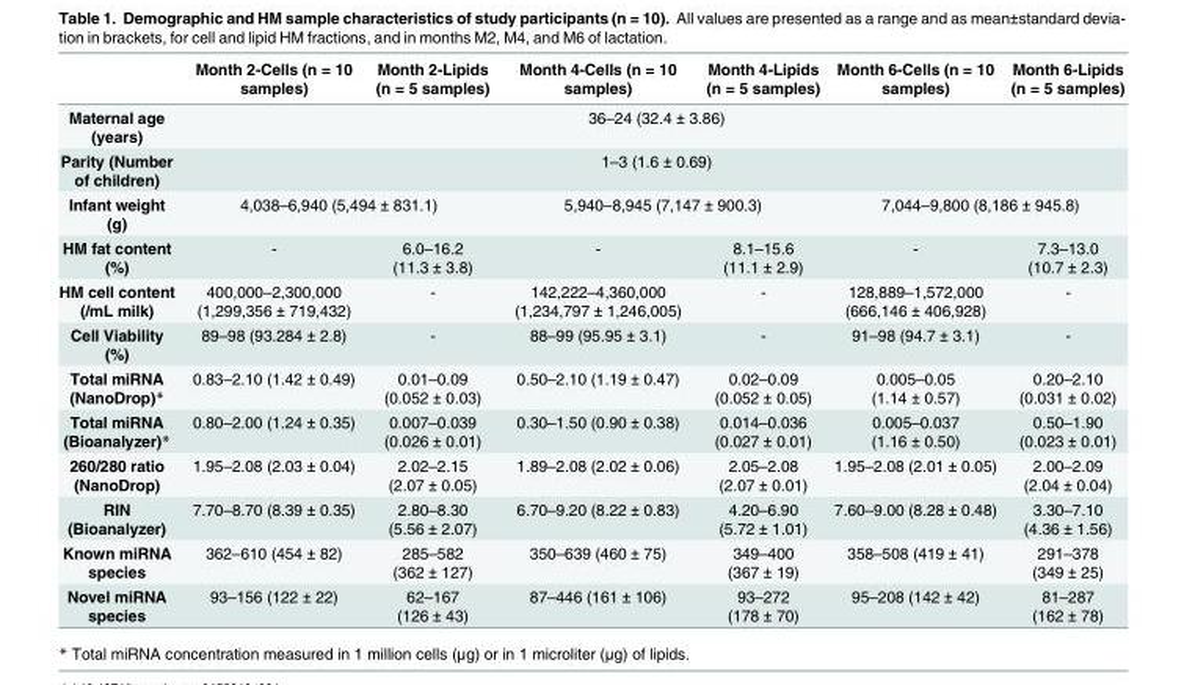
<table><thead><tr><td></td><td>Month 2-Cells (n = 10 samples)</td><td>Month 2-Lipids (n = 5 samples)</td><td>Month 4-Cells (n = 10 samples)</td><td>Month 4-Lipids (n = 5 samples)</td><td>Month 6-Cells (n = 10 samples)</td><td>Month 6-Lipids (n = 5 samples)</td></tr></thead><tbody><tr><td>Maternal age (years)</td><td colspan="6">36–24 (32.4 ± 3.86)</td></tr><tr><td>Parity (Number of children)</td><td colspan="6">1–3 (1.6 ± 0.69)</td></tr><tr><td>Infant weight (g)</td><td colspan="2">4,038–6,940 (5,494 ± 831.1)</td><td colspan="2">5,940–8,945 (7,147 ± 900.3)</td><td colspan="2">7,044–9,800 (8,186 ± 945.8)</td></tr><tr><td>HM fat content (%)</td><td>-</td><td>6.0–16.2 (11.3 ± 3.8)</td><td>-</td><td>8.1–15.6 (11.1 ± 2.9)</td><td>-</td><td>7.3–13.0 (10.7 ± 2.3)</td></tr><tr><td>HM cell content (/mL milk)</td><td>400,000–2,300,000 (1,299,356 ± 719,432)</td><td>-</td><td>142,222–4,360,000 (1,234,797 ± 1,246,005)</td><td>-</td><td>128,889–1,572,000 (666,146 ± 406,928)</td><td>-</td></tr><tr><td>Cell Viability (%)</td><td>89–98 (93.284 ± 2.8)</td><td>-</td><td>88–99 (95.95 ± 3.1)</td><td>-</td><td>91–98 (94.7 ± 3.1)</td><td>-</td></tr><tr><td>Total miRNA (NanoDrop)*</td><td>0.83–2.10 (1.42 ± 0.49)</td><td>0.01–0.09 (0.052 ± 0.03)</td><td>0.50–2.10 (1.19 ± 0.47)</td><td>0.02–0.09 (0.052 ± 0.05)</td><td>0.005–0.05 (1.14 ± 0.57)</td><td>0.20–2.10 (0.031 ± 0.02)</td></tr><tr><td>Total miRNA (Bioanalyzer)*</td><td>0.80–2.00 (1.24 ± 0.35)</td><td>0.007–0.039 (0.026 ± 0.01)</td><td>0.30–1.50 (0.90 ± 0.38)</td><td>0.014–0.036 (0.027 ± 0.01)</td><td>0.005–0.037 (1.16 ± 0.50)</td><td>0.50–1.90 (0.023 ± 0.01)</td></tr><tr><td>260/280 ratio (NanoDrop)</td><td>1.95–2.08 (2.03 ± 0.04)</td><td>2.02–2.15 (2.07 ± 0.05)</td><td>1.89–2.08 (2.02 ± 0.06)</td><td>2.05–2.08 (2.07 ± 0.01)</td><td>1.95–2.08 (2.01 ± 0.05)</td><td>2.00–2.09 (2.04 ± 0.04)</td></tr><tr><td>RIN (Bioanalyzer)</td><td>7.70–8.70 (8.39 ± 0.35)</td><td>2.80–8.30 (5.56 ± 2.07)</td><td>6.70–9.20 (8.22 ± 0.83)</td><td>4.20–6.90 (5.72 ± 1.01)</td><td>7.60–9.00 (8.28 ± 0.48)</td><td>3.30–7.10 (4.36 ± 1.56)</td></tr><tr><td>Known miRNA species</td><td>362–610 (454 ± 82)</td><td>285–582 (362 ± 127)</td><td>350–639 (460 ± 75)</td><td>349–400 (367 ± 19)</td><td>358–508 (419 ± 41)</td><td>291–378 (349 ± 25)</td></tr><tr><td>Novel miRNA species</td><td>93–156 (122 ± 22)</td><td>62–167 (126 ± 43)</td><td>87–446 (161 ± 106)</td><td>93–272 (178 ± 70)</td><td>95–208 (142 ± 42)</td><td>81–287 (162 ± 78)</td></tr></tbody></table>